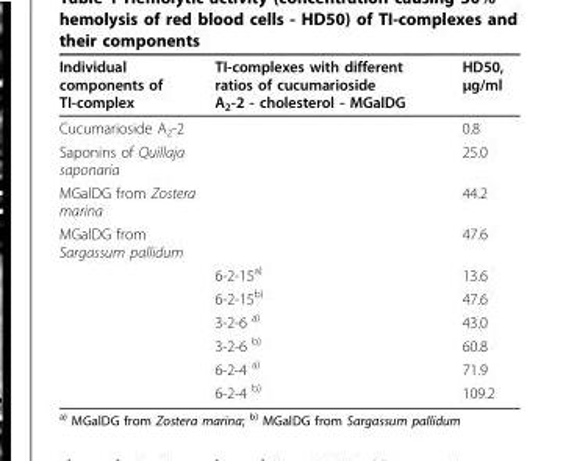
<table><thead><tr><td>Individual components of TI-complex</td><td>TI-complexes with different ratios of cucumarioside A<sub>2</sub>-2 - cholesterol - MGalDG</td><td>HD50, μg/ml</td></tr></thead><tbody><tr><td>Cucumarioside A<sub>2</sub>-2</td><td></td><td>0.8</td></tr><tr><td>Saponins of Quillaja saponaria</td><td></td><td>25.0</td></tr><tr><td>MGalDG from Zostera marina</td><td></td><td>44.2</td></tr><tr><td rowspan="7">MGalDG from Sargassum pallidum</td><td></td><td>47.6</td></tr><tr><td>6-2-15<sup>a)</sup></td><td>13.6</td></tr><tr><td>6-2-15<sup>b)</sup></td><td>47.6</td></tr><tr><td>3-2-6 <sup>a)</sup></td><td>43.0</td></tr><tr><td>3-2-6 <sup>b)</sup></td><td>60.8</td></tr><tr><td>6-2-4 <sup>a)</sup></td><td>71.9</td></tr><tr><td>6-2-4 <sup>b)</sup></td><td>109.2</td></tr></tbody></table>